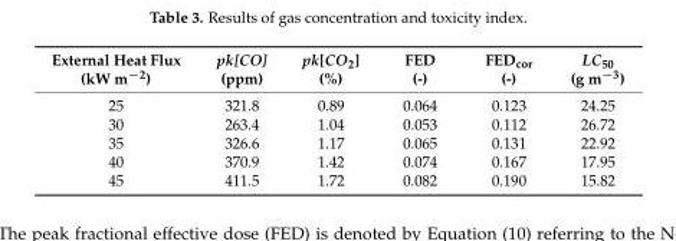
<table><thead><tr><td>External Heat Flux (kW m<sup>−2</sup>)</td><td>pk[CO] (ppm)</td><td>pk[CO<sub>2</sub>] (%)</td><td>FED (-)</td><td>FED<sub>cor</sub> (-)</td><td>LC<sub>50</sub> (g m<sup>−3</sup>)</td></tr></thead><tbody><tr><td>25</td><td>321.8</td><td>0.89</td><td>0.064</td><td>0.123</td><td>24.25</td></tr><tr><td>30</td><td>263.4</td><td>1.04</td><td>0.053</td><td>0.112</td><td>26.72</td></tr><tr><td>35</td><td>326.6</td><td>1.17</td><td>0.065</td><td>0.131</td><td>22.92</td></tr><tr><td>40</td><td>370.9</td><td>1.42</td><td>0.074</td><td>0.167</td><td>17.95</td></tr><tr><td>45</td><td>411.5</td><td>1.72</td><td>0.082</td><td>0.190</td><td>15.82</td></tr></tbody></table>